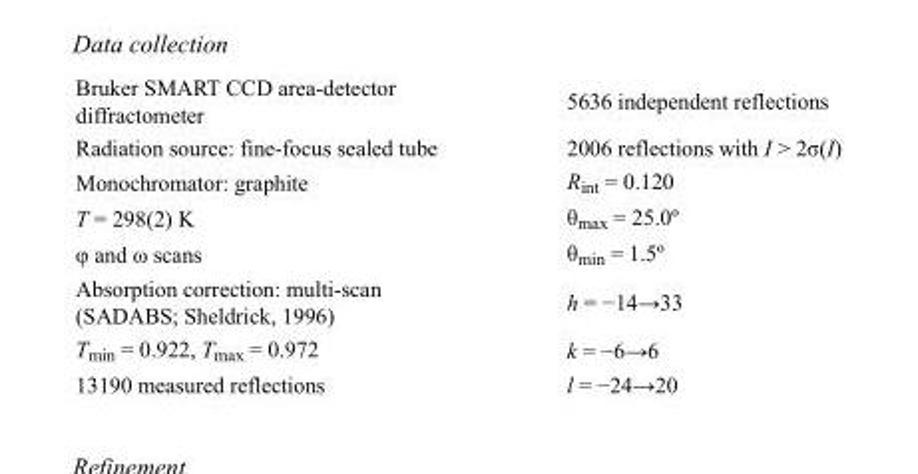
<table><tbody><tr><td>Bruker SMART CCD area-detector diffractometer</td><td>5636 independent reflections</td></tr><tr><td>Radiation source: fine-focus sealed tube</td><td>2006 reflections with I &gt; 2σ(I)</td></tr><tr><td>Monochromator: graphite</td><td>R<sub>int</sub> = 0.120</td></tr><tr><td>T = 298(2) K</td><td>θ<sub>max</sub> = 25.0º</td></tr><tr><td>φ and ω scans</td><td>θ<sub>min</sub> = 1.5º</td></tr><tr><td>Absorption correction: multi-scan (SADABS; Sheldrick, 1996)</td><td>h = −14→33</td></tr><tr><td>T<sub>min</sub> = 0.922, T<sub>max</sub> = 0.972</td><td>k = −6→6</td></tr><tr><td>13190 measured reflections</td><td>l = −24→20</td></tr></tbody></table>